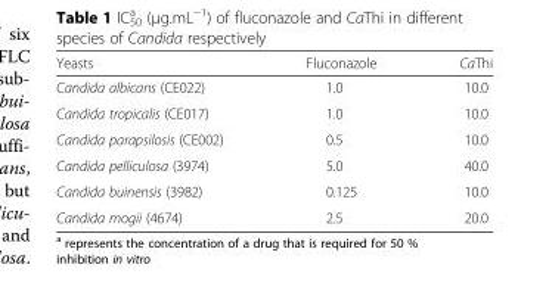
<table><thead><tr><td>Yeasts</td><td>Fluconazole</td><td>CaThi</td></tr></thead><tbody><tr><td>Candida albicans (CE022)</td><td>1.0</td><td>10.0</td></tr><tr><td>Candida tropicalis (CE017)</td><td>1.0</td><td>10.0</td></tr><tr><td>Candida parapsilosis (CE002)</td><td>0.5</td><td>10.0</td></tr><tr><td>Candida pelliculosa (3974)</td><td>5.0</td><td>40.0</td></tr><tr><td>Candida buinensis (3982)</td><td>0.125</td><td>10.0</td></tr><tr><td>Candida mogii (4674)</td><td>2.5</td><td>20.0</td></tr></tbody></table>